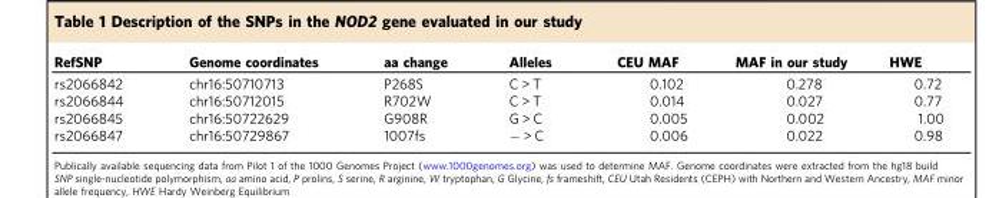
<table><thead><tr><td>RefSNP</td><td>Genome coordinates</td><td>aa change</td><td>Alleles</td><td>CEU MAF</td><td>MAF in our study</td><td>HWE</td></tr></thead><tbody><tr><td>rs2066842</td><td>chr16:50710713</td><td>P268S</td><td>C &gt; T</td><td>0.102</td><td>0.278</td><td>0.72</td></tr><tr><td>rs2066844</td><td>chr16:50712015</td><td>R702W</td><td>C &gt; T</td><td>0.014</td><td>0.027</td><td>0.77</td></tr><tr><td>rs2066845</td><td>chr16:50722629</td><td>G908R</td><td>G &gt; C</td><td>0.005</td><td>0.002</td><td>1.00</td></tr><tr><td>rs2066847</td><td>chr16:50729867</td><td>1007fs</td><td>− &gt; C</td><td>0.006</td><td>0.022</td><td>0.98</td></tr></tbody></table>